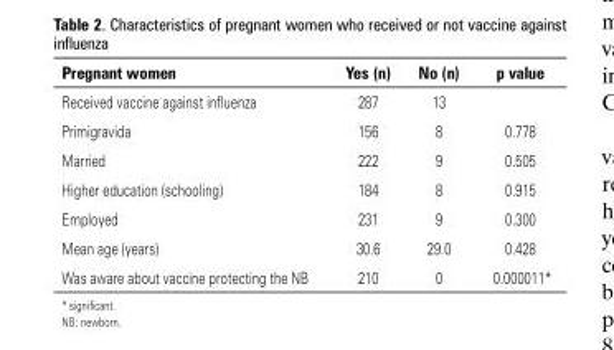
<table><thead><tr><td>Pregnant women</td><td>Yes (n)</td><td>No (n)</td><td>p value</td></tr></thead><tbody><tr><td>Received vaccine against influenza</td><td>287</td><td>13</td><td></td></tr><tr><td>Primigravida</td><td>156</td><td>8</td><td>0.778</td></tr><tr><td>Married</td><td>222</td><td>9</td><td>0.505</td></tr><tr><td>Higher education (schooling)</td><td>184</td><td>8</td><td>0.915</td></tr><tr><td>Employed</td><td>231</td><td>9</td><td>0.300</td></tr><tr><td>Mean age (years)</td><td>30.6</td><td>29.0</td><td>0.428</td></tr><tr><td>Was aware about vaccine protecting the NB</td><td>210</td><td>0</td><td>0.000011*</td></tr></tbody></table>